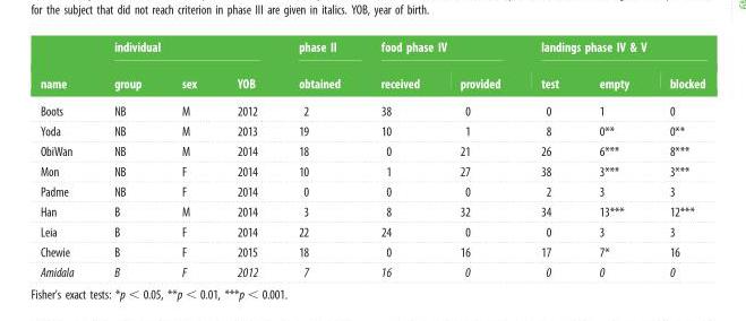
<table><thead><tr><td rowspan="2">name</td><td colspan="3">individual</td><td rowspan="2">phase II obtained</td><td colspan="2">food phase IV</td><td colspan="3">landings phase IV &amp; V</td></tr><tr><td>group</td><td>sex</td><td>YOB</td><td>received</td><td>provided</td><td>test</td><td>empty</td><td>blocked</td></tr></thead><tbody><tr><td>Boots</td><td>NB</td><td>M</td><td>2012</td><td>2</td><td>38</td><td>0</td><td>0</td><td>1</td><td>0</td></tr><tr><td>Yoda</td><td>NB</td><td>M</td><td>2013</td><td>19</td><td>10</td><td>1</td><td>8</td><td>0**</td><td>0**</td></tr><tr><td>ObiWan</td><td>NB</td><td>M</td><td>2014</td><td>18</td><td>0</td><td>21</td><td>26</td><td>6***</td><td>8***</td></tr><tr><td>Mon</td><td>NB</td><td>F</td><td>2014</td><td>10</td><td>1</td><td>27</td><td>38</td><td>3***</td><td>3***</td></tr><tr><td>Padme</td><td>NB</td><td>F</td><td>2014</td><td>0</td><td>0</td><td>0</td><td>2</td><td>3</td><td>3</td></tr><tr><td>Han</td><td>B</td><td>M</td><td>2014</td><td>3</td><td>8</td><td>32</td><td>34</td><td>13***</td><td>12***</td></tr><tr><td>Leia</td><td>B</td><td>F</td><td>2014</td><td>22</td><td>24</td><td>0</td><td>0</td><td>3</td><td>3</td></tr><tr><td>Chewie</td><td>B</td><td>F</td><td>2015</td><td>18</td><td>0</td><td>16</td><td>17</td><td>7*</td><td>16</td></tr><tr><td>Amidala</td><td>B</td><td>F</td><td>2012</td><td>7</td><td>16</td><td>0</td><td>0</td><td>0</td><td>0</td></tr></tbody></table>